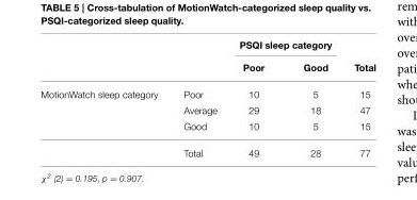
<table><thead><tr><td rowspan="2"></td><td rowspan="2"></td><td colspan="2">PSQI sleep category</td><td rowspan="2">Total</td></tr><tr><td>Poor</td><td>Good</td></tr></thead><tbody><tr><td rowspan="4">MotionWatch sleep category</td><td>Poor</td><td>10</td><td>5</td><td>15</td></tr><tr><td>Average</td><td>29</td><td>18</td><td>47</td></tr><tr><td>Good</td><td>10</td><td>5</td><td>15</td></tr><tr><td>Total</td><td>49</td><td>28</td><td>77</td></tr></tbody></table>